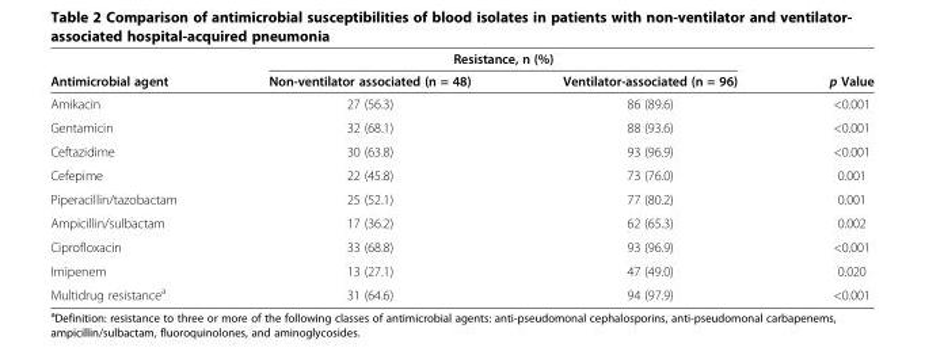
<table><thead><tr><td rowspan="2">Antimicrobial agent</td><td colspan="2">Resistance, n (%)</td><td rowspan="2">p Value</td></tr><tr><td>Non-ventilator associated (n = 48)</td><td>Ventilator-associated (n = 96)</td></tr></thead><tbody><tr><td>Amikacin</td><td>27 (56.3)</td><td>86 (89.6)</td><td>&lt;0.001</td></tr><tr><td>Gentamicin</td><td>32 (68.1)</td><td>88 (93.6)</td><td>&lt;0.001</td></tr><tr><td>Ceftazidime</td><td>30 (63.8)</td><td>93 (96.9)</td><td>&lt;0.001</td></tr><tr><td>Cefepime</td><td>22 (45.8)</td><td>73 (76.0)</td><td>0.001</td></tr><tr><td>Piperacillin/tazobactam</td><td>25 (52.1)</td><td>77 (80.2)</td><td>0.001</td></tr><tr><td>Ampicillin/sulbactam</td><td>17 (36.2)</td><td>62 (65.3)</td><td>0.002</td></tr><tr><td>Ciprofloxacin</td><td>33 (68.8)</td><td>93 (96.9)</td><td>&lt;0.001</td></tr><tr><td>Imipenem</td><td>13 (27.1)</td><td>47 (49.0)</td><td>0.020</td></tr><tr><td>Multidrug resistance<sup>a</sup></td><td>31 (64.6)</td><td>94 (97.9)</td><td>&lt;0.001</td></tr></tbody></table>